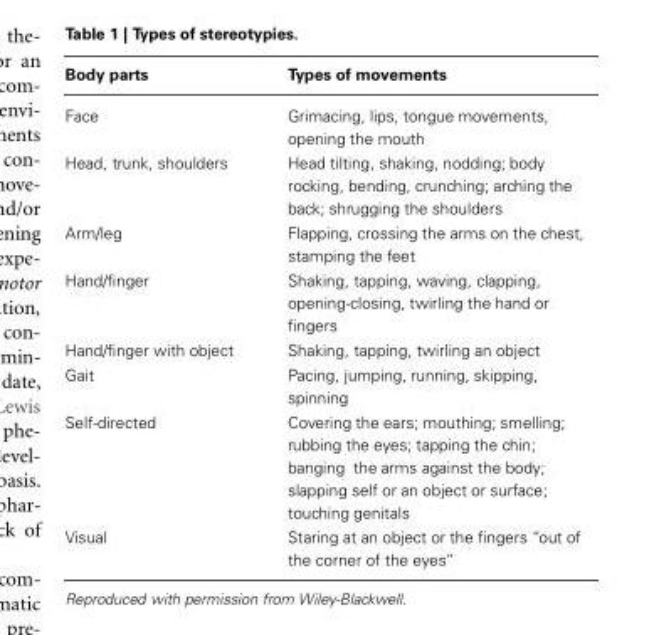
<table><thead><tr><td>Body parts</td><td>Types of movements</td></tr></thead><tbody><tr><td>Face</td><td>Grimacing, lips, tongue movements, opening the mouth</td></tr><tr><td>Head, trunk, shoulders</td><td>Head tilting, shaking, nodding; body rocking, bending, crunching; arching the back; shrugging the shoulders</td></tr><tr><td>Arm/leg</td><td>Flapping, crossing the arms on the chest, stamping the feet</td></tr><tr><td>Hand/finger</td><td>Shaking, tapping, waving, clapping, opening-closing, twirling the hand or fingers</td></tr><tr><td>Hand/finger with object</td><td>Shaking, tapping, twirling an object</td></tr><tr><td>Gait</td><td>Pacing, jumping, running, skipping, spinning</td></tr><tr><td>Self-directed</td><td>Covering the ears; mouthing; smelling; rubbing the eyes; tapping the chin; banging the arms against the body; slapping self or an object or surface; touching genitals</td></tr><tr><td>Visual</td><td>Staring at an object or the fingers “out of the corner of the eyes”</td></tr></tbody></table>